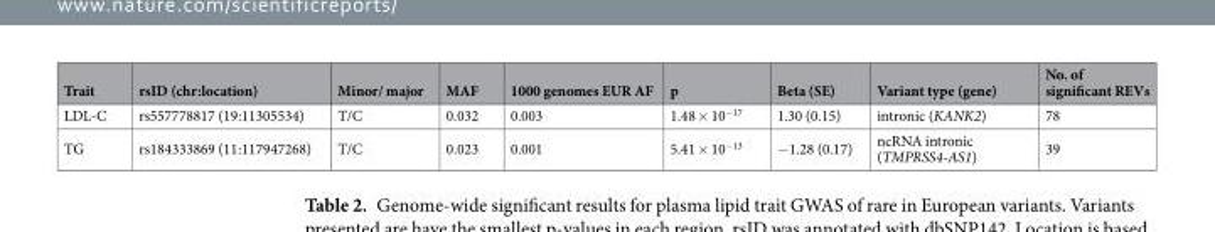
<table><thead><tr><td>Trait</td><td>rsID (chr:location)</td><td>Minor/ major</td><td>MAF</td><td>1000 genomes EUR AF</td><td>p</td><td>Beta (SE)</td><td>Variant type (gene)</td><td>No. of significant REVs</td></tr></thead><tbody><tr><td>LDL-C</td><td>rs557778817 (19:11305534)</td><td>T/C</td><td>0.032</td><td>0.003</td><td>1.48 × 10<sup>−17</sup></td><td>1.30 (0.15)</td><td>intronic (KANK2)</td><td>78</td></tr><tr><td>TG</td><td>rs184333869 (11:117947268)</td><td>T/C</td><td>0.023</td><td>0.001</td><td>5.41 × 10<sup>−13</sup></td><td>−1.28 (0.17)</td><td>ncRNA intronic (TMPRSS4-AS1)</td><td>39</td></tr></tbody></table>